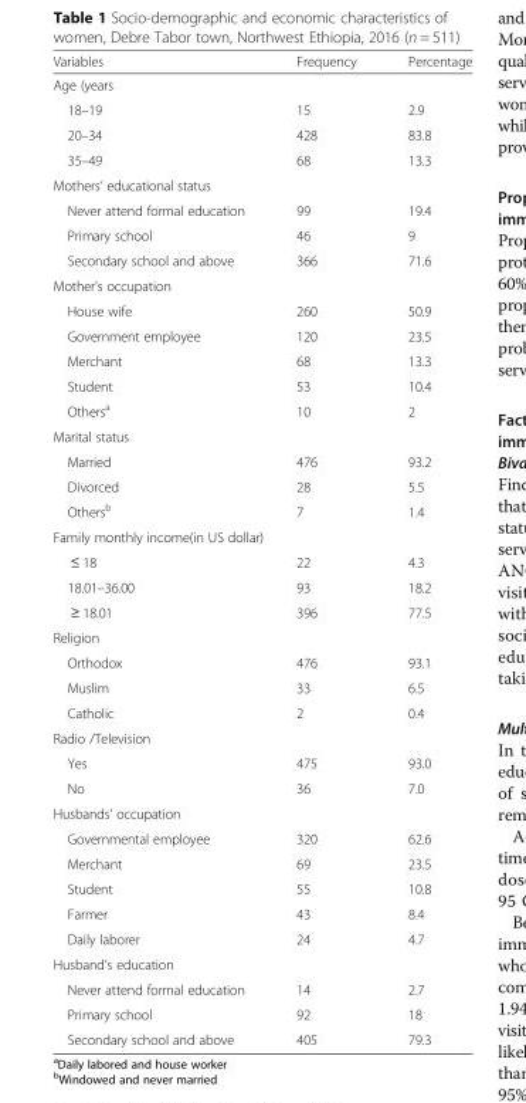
<table><thead><tr><td>Variables</td><td>Frequency</td><td>Percentage</td></tr></thead><tbody><tr><td colspan="3">Age (years</td></tr><tr><td>18–19</td><td>15</td><td>2.9</td></tr><tr><td>20–34</td><td>428</td><td>83.8</td></tr><tr><td>35–49</td><td>68</td><td>13.3</td></tr><tr><td colspan="3">Mothers’ educational status</td></tr><tr><td>Never attend formal education</td><td>99</td><td>19.4</td></tr><tr><td>Primary school</td><td>46</td><td>9</td></tr><tr><td>Secondary school and above</td><td>366</td><td>71.6</td></tr><tr><td colspan="3">Mother’s occupation</td></tr><tr><td>House wife</td><td>260</td><td>50.9</td></tr><tr><td>Government employee</td><td>120</td><td>23.5</td></tr><tr><td>Merchant</td><td>68</td><td>13.3</td></tr><tr><td>Student</td><td>53</td><td>10.4</td></tr><tr><td>Others<sup>a</sup></td><td>10</td><td>2</td></tr><tr><td colspan="3">Marital status</td></tr><tr><td>Married</td><td>476</td><td>93.2</td></tr><tr><td>Divorced</td><td>28</td><td>5.5</td></tr><tr><td>Others<sup>b</sup></td><td>7</td><td>1.4</td></tr><tr><td colspan="3">Family monthly income(in US dollar)</td></tr><tr><td>≤ 18</td><td>22</td><td>4.3</td></tr><tr><td>18.01–36.00</td><td>93</td><td>18.2</td></tr><tr><td>≥ 18.01</td><td>396</td><td>77.5</td></tr><tr><td colspan="3">Religion</td></tr><tr><td>Orthodox</td><td>476</td><td>93.1</td></tr><tr><td>Muslim</td><td>33</td><td>6.5</td></tr><tr><td>Catholic</td><td>2</td><td>0.4</td></tr><tr><td colspan="3">Radio /Television</td></tr><tr><td>Yes</td><td>475</td><td>93.0</td></tr><tr><td>No</td><td>36</td><td>7.0</td></tr><tr><td colspan="3">Husbands’ occupation</td></tr><tr><td>Governmental employee</td><td>320</td><td>62.6</td></tr><tr><td>Merchant</td><td>69</td><td>23.5</td></tr><tr><td>Student</td><td>55</td><td>10.8</td></tr><tr><td>Farmer</td><td>43</td><td>8.4</td></tr><tr><td>Daily laborer</td><td>24</td><td>4.7</td></tr><tr><td colspan="3">Husband’s education</td></tr><tr><td>Never attend formal education</td><td>14</td><td>2.7</td></tr><tr><td>Primary school</td><td>92</td><td>18</td></tr><tr><td>Secondary school and above</td><td>405</td><td>79.3</td></tr></tbody></table>